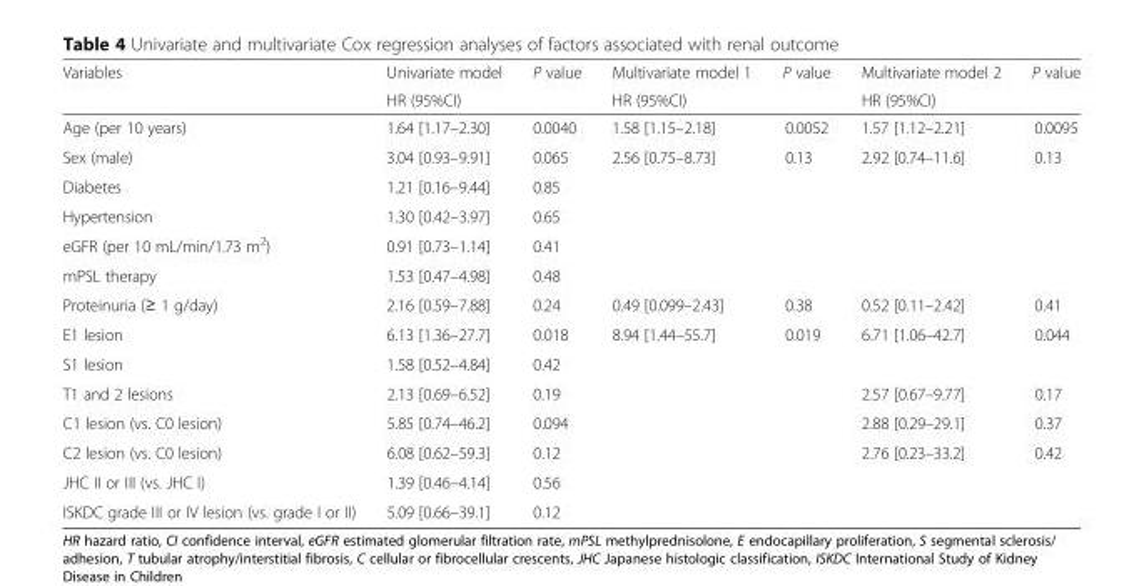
<table><thead><tr><td rowspan="2">Variables</td><td rowspan="2">Univariate model HR (95%CI)</td><td rowspan="2">P value</td><td rowspan="2">Multivariate model 1 HR (95%CI)</td><td rowspan="2">P value</td><td rowspan="2">Multivariate model 2 HR (95%CI)</td><td rowspan="2">P value</td></tr><tr></tr></thead><tbody><tr><td>Age (per 10 years)</td><td>1.64 [1.17–2.30]</td><td>0.0040</td><td>1.58 [1.15–2.18]</td><td>0.0052</td><td>1.57 [1.12–2.21]</td><td>0.0095</td></tr><tr><td>Sex (male)</td><td>3.04 [0.93–9.91]</td><td>0.065</td><td>2.56 [0.75–8.73]</td><td>0.13</td><td>2.92 [0.74–11.6]</td><td>0.13</td></tr><tr><td>Diabetes</td><td>1.21 [0.16–9.44]</td><td>0.85</td><td></td><td></td><td></td><td></td></tr><tr><td>Hypertension</td><td>1.30 [0.42–3.97]</td><td>0.65</td><td></td><td></td><td></td><td></td></tr><tr><td>eGFR (per 10 mL/min/1.73 m<sup>2</sup>)</td><td>0.91 [0.73–1.14]</td><td>0.41</td><td></td><td></td><td></td><td></td></tr><tr><td>mPSL therapy</td><td>1.53 [0.47–4.98]</td><td>0.48</td><td></td><td></td><td></td><td></td></tr><tr><td>Proteinuria (≥ 1 g/day)</td><td>2.16 [0.59–7.88]</td><td>0.24</td><td>0.49 [0.099–2.43]</td><td>0.38</td><td>0.52 [0.11–2.42]</td><td>0.41</td></tr><tr><td>E1 lesion</td><td>6.13 [1.36–27.7]</td><td>0.018</td><td>8.94 [1.44–55.7]</td><td>0.019</td><td>6.71 [1.06–42.7]</td><td>0.044</td></tr><tr><td>S1 lesion</td><td>1.58 [0.52–4.84]</td><td>0.42</td><td></td><td></td><td></td><td></td></tr><tr><td>T1 and 2 lesions</td><td>2.13 [0.69–6.52]</td><td>0.19</td><td></td><td></td><td>2.57 [0.67–9.77]</td><td>0.17</td></tr><tr><td>C1 lesion (vs. C0 lesion)</td><td>5.85 [0.74–46.2]</td><td>0.094</td><td></td><td></td><td>2.88 [0.29–29.1]</td><td>0.37</td></tr><tr><td>C2 lesion (vs. C0 lesion)</td><td>6.08 [0.62–59.3]</td><td>0.12</td><td></td><td></td><td>2.76 [0.23–33.2]</td><td>0.42</td></tr><tr><td>JHC II or III (vs. JHC I)</td><td>1.39 [0.46–4.14]</td><td>0.56</td><td></td><td></td><td></td><td></td></tr><tr><td>ISKDC grade III or IV lesion (vs. grade I or II)</td><td>5.09 [0.66–39.1]</td><td>0.12</td><td></td><td></td><td></td><td></td></tr></tbody></table>